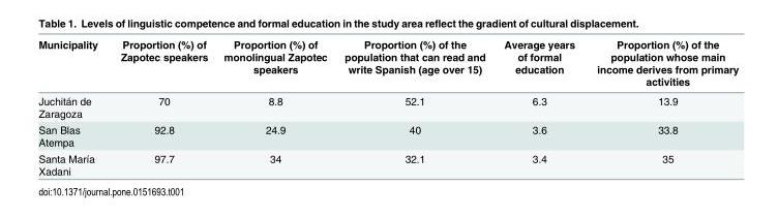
<table><thead><tr><td>Municipality</td><td>Proportion (%) of Zapotec speakers</td><td>Proportion (%) of monolingual Zapotec speakers</td><td>Proportion (%) of the population that can read and write Spanish (age over 15)</td><td>Average years of formal education</td><td>Proportion (%) of the population whose main income derives from primary activities</td></tr></thead><tbody><tr><td>Juchitán de Zaragoza</td><td>70</td><td>8.8</td><td>52.1</td><td>6.3</td><td>13.9</td></tr><tr><td>San Blas Atempa</td><td>92.8</td><td>24.9</td><td>40</td><td>3.6</td><td>33.8</td></tr><tr><td>Santa María Xadani</td><td>97.7</td><td>34</td><td>32.1</td><td>3.4</td><td>35</td></tr></tbody></table>